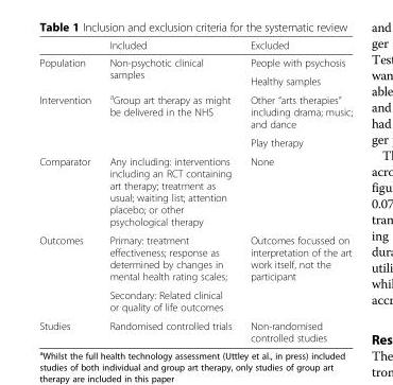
<table><thead><tr><td></td><td>Included</td><td>Excluded</td></tr></thead><tbody><tr><td rowspan="2">Population</td><td rowspan="2">Non-psychotic clinical samples</td><td>People with psychosis</td></tr><tr><td>Healthy samples</td></tr><tr><td rowspan="2">Intervention</td><td rowspan="2"><sup>a</sup>Group art therapy as might be delivered in the NHS</td><td>Other “arts therapies” including drama; music; and dance</td></tr><tr><td>Play therapy</td></tr><tr><td>Comparator</td><td>Any including: interventions including an RCT containing art therapy; treatment as usual; waiting list; attention placebo; or other psychological therapy</td><td>None</td></tr><tr><td rowspan="2">Outcomes</td><td>Primary: treatment effectiveness; response as determined by changes in mental health rating scales;</td><td rowspan="2">Outcomes focussed on interpretation of the art work itself, not the participant</td></tr><tr><td>Secondary: Related clinical or quality of life outcomes</td></tr><tr><td>Studies</td><td>Randomised controlled trials</td><td>Non-randomised controlled studies</td></tr></tbody></table>